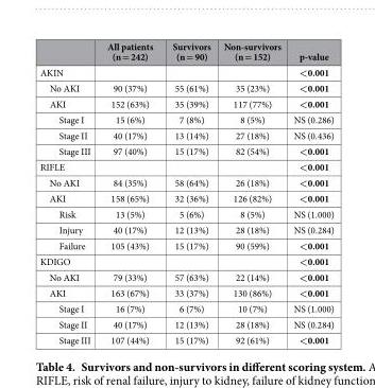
<table><thead><tr><td></td><td>All patients (n = 242)</td><td>Survivors (n = 90)</td><td>Non-survivors (n = 152)</td><td>p-value</td></tr></thead><tbody><tr><td>AKIN</td><td></td><td></td><td></td><td>&lt;0.001</td></tr><tr><td>No AKI</td><td>90 (37%)</td><td>55 (61%)</td><td>35 (23%)</td><td>&lt;0.001</td></tr><tr><td>AKI</td><td>152 (63%)</td><td>35 (39%)</td><td>117 (77%)</td><td>&lt;0.001</td></tr><tr><td>Stage I</td><td>15 (6%)</td><td>7 (8%)</td><td>8 (5%)</td><td>NS (0.286)</td></tr><tr><td>Stage II</td><td>40 (17%)</td><td>13 (14%)</td><td>27 (18%)</td><td>NS (0.436)</td></tr><tr><td>Stage III</td><td>97 (40%)</td><td>15 (17%)</td><td>82 (54%)</td><td>&lt;0.001</td></tr><tr><td>RIFLE</td><td></td><td></td><td></td><td>&lt;0.001</td></tr><tr><td>No AKI</td><td>84 (35%)</td><td>58 (64%)</td><td>26 (18%)</td><td>&lt;0.001</td></tr><tr><td>AKI</td><td>158 (65%)</td><td>32 (36%)</td><td>126 (82%)</td><td>&lt;0.001</td></tr><tr><td>Risk</td><td>13 (5%)</td><td>5 (6%)</td><td>8 (5%)</td><td>NS (1.000)</td></tr><tr><td>Injury</td><td>40 (17%)</td><td>12 (13%)</td><td>28 (18%)</td><td>NS (0.284)</td></tr><tr><td>Failure</td><td>105 (43%)</td><td>15 (17%)</td><td>90 (59%)</td><td>&lt;0.001</td></tr><tr><td>KDIGO</td><td></td><td></td><td></td><td>&lt;0.001</td></tr><tr><td>No AKI</td><td>79 (33%)</td><td>57 (63%)</td><td>22 (14%)</td><td>&lt;0.001</td></tr><tr><td>AKI</td><td>163 (67%)</td><td>33 (37%)</td><td>130 (86%)</td><td>&lt;0.001</td></tr><tr><td>Stage I</td><td>16 (7%)</td><td>6 (7%)</td><td>10 (7%)</td><td>NS (1.000)</td></tr><tr><td>Stage II</td><td>40 (17%)</td><td>12 (13%)</td><td>28 (18%)</td><td>NS (0.284)</td></tr><tr><td>Stage III</td><td>107 (44%)</td><td>15 (17%)</td><td>92 (61%)</td><td>&lt;0.001</td></tr></tbody></table>